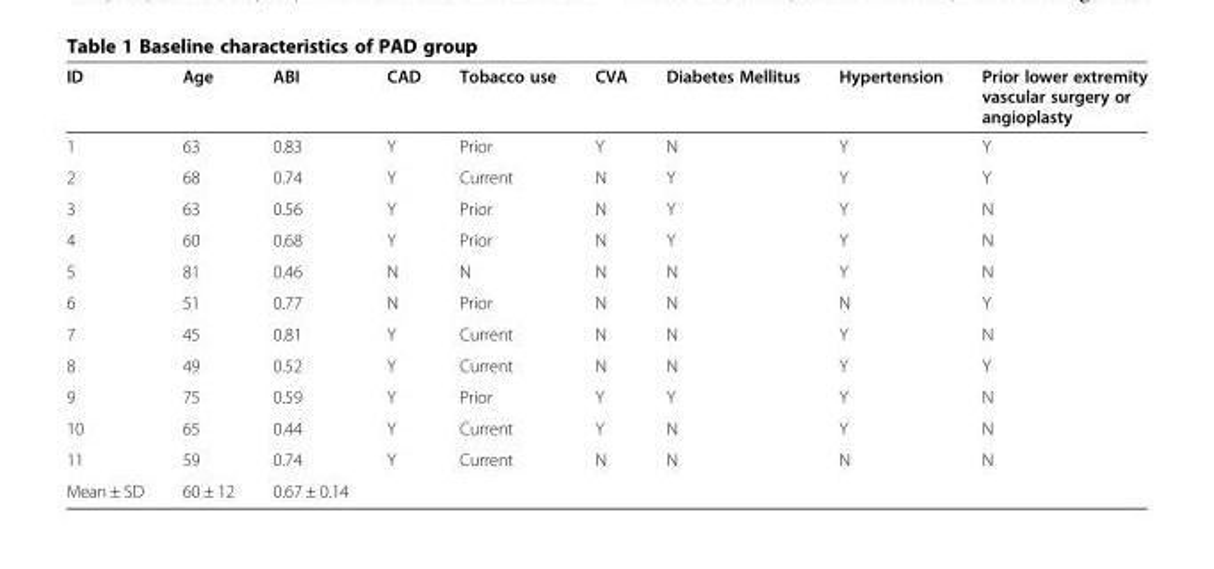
<table><thead><tr><td>ID</td><td>Age</td><td>ABI</td><td>CAD</td><td>Tobacco use</td><td>CVA</td><td>Diabetes Mellitus</td><td>Hypertension</td><td>Prior lower extremity vascular surgery or angioplasty</td></tr></thead><tbody><tr><td>1</td><td>63</td><td>0.83</td><td>Y</td><td>Prior</td><td>Y</td><td>N</td><td>Y</td><td>Y</td></tr><tr><td>2</td><td>68</td><td>0.74</td><td>Y</td><td>Current</td><td>N</td><td>Y</td><td>Y</td><td>Y</td></tr><tr><td>3</td><td>63</td><td>0.56</td><td>Y</td><td>Prior</td><td>N</td><td>Y</td><td>Y</td><td>N</td></tr><tr><td>4</td><td>60</td><td>0.68</td><td>Y</td><td>Prior</td><td>N</td><td>Y</td><td>Y</td><td>N</td></tr><tr><td>5</td><td>81</td><td>0.46</td><td>N</td><td>N</td><td>N</td><td>N</td><td>Y</td><td>N</td></tr><tr><td>6</td><td>51</td><td>0.77</td><td>N</td><td>Prior</td><td>N</td><td>N</td><td>N</td><td>Y</td></tr><tr><td>7</td><td>45</td><td>0.81</td><td>Y</td><td>Current</td><td>N</td><td>N</td><td>Y</td><td>N</td></tr><tr><td>8</td><td>49</td><td>0.52</td><td>Y</td><td>Current</td><td>N</td><td>N</td><td>Y</td><td>Y</td></tr><tr><td>9</td><td>75</td><td>0.59</td><td>Y</td><td>Prior</td><td>Y</td><td>Y</td><td>Y</td><td>N</td></tr><tr><td>10</td><td>65</td><td>0.44</td><td>Y</td><td>Current</td><td>Y</td><td>N</td><td>Y</td><td>N</td></tr><tr><td>11</td><td>59</td><td>0.74</td><td>Y</td><td>Current</td><td>N</td><td>N</td><td>N</td><td>N</td></tr><tr><td>Mean ± SD</td><td>60 ± 12</td><td>0.67 ± 0.14</td><td></td><td></td><td></td><td></td><td></td><td></td></tr></tbody></table>